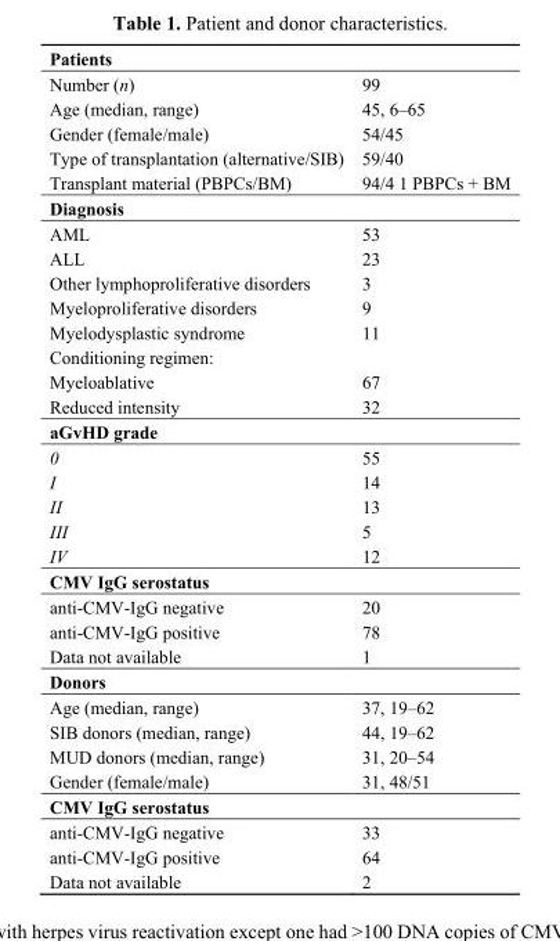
<table><tbody><tr><td colspan="2">Patients</td></tr><tr><td>Number (n)</td><td>99</td></tr><tr><td>Age (median, range)</td><td>45, 6–65</td></tr><tr><td>Gender (female/male)</td><td>54/45</td></tr><tr><td>Type of transplantation (alternative/SIB)</td><td>59/40</td></tr><tr><td>Transplant material (PBPCs/BM)</td><td>94/4 1 PBPCs + BM</td></tr><tr><td colspan="2">Diagnosis</td></tr><tr><td>AML</td><td>53</td></tr><tr><td>ALL</td><td>23</td></tr><tr><td>Other lymphoproliferative disorders</td><td>3</td></tr><tr><td>Myeloproliferative disorders</td><td>9</td></tr><tr><td>Myelodysplastic syndrome</td><td>11</td></tr><tr><td colspan="2">Conditioning regimen:</td></tr><tr><td>Myeloablative</td><td>67</td></tr><tr><td>Reduced intensity</td><td>32</td></tr><tr><td colspan="2">aGvHD grade</td></tr><tr><td>0</td><td>55</td></tr><tr><td>I</td><td>14</td></tr><tr><td>II</td><td>13</td></tr><tr><td>III</td><td>5</td></tr><tr><td>IV</td><td>12</td></tr><tr><td colspan="2">CMV IgG serostatus</td></tr><tr><td>anti-CMV-IgG negative</td><td>20</td></tr><tr><td>anti-CMV-IgG positive</td><td>78</td></tr><tr><td>Data not available</td><td>1</td></tr><tr><td colspan="2">Donors</td></tr><tr><td>Age (median, range)</td><td>37, 19–62</td></tr><tr><td>SIB donors (median, range)</td><td>44, 19–62</td></tr><tr><td>MUD donors (median, range)</td><td>31, 20–54</td></tr><tr><td>Gender (female/male)</td><td>31, 48/51</td></tr><tr><td colspan="2">CMV IgG serostatus</td></tr><tr><td>anti-CMV-IgG negative</td><td>33</td></tr><tr><td>anti-CMV-IgG positive</td><td>64</td></tr><tr><td>Data not available</td><td>2</td></tr></tbody></table>